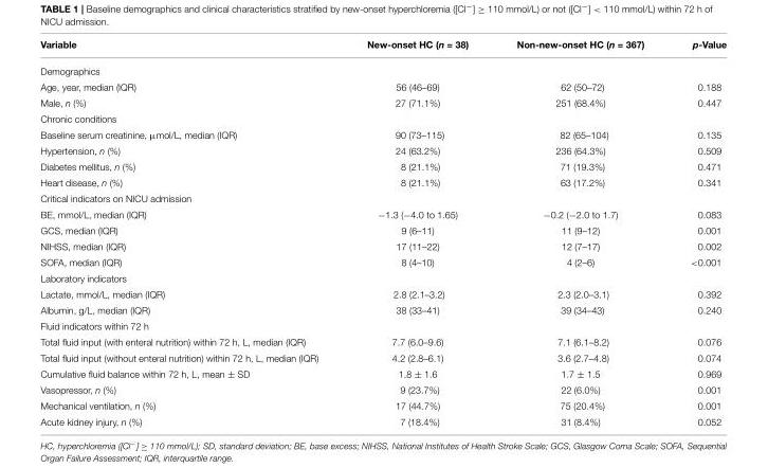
<table><thead><tr><td>Variable</td><td>New-onset HC (n = 38)</td><td>Non-new-onset HC (n = 367)</td><td>p-Value</td></tr></thead><tbody><tr><td colspan="4">Demographics</td></tr><tr><td>Age, year, median (IQR)</td><td>56 (46–69)</td><td>62 (50–72)</td><td>0.188</td></tr><tr><td>Male, n (%)</td><td>27 (71.1%)</td><td>251 (68.4%)</td><td>0.447</td></tr><tr><td colspan="4">Chronic conditions</td></tr><tr><td>Baseline serum creatinine, µmol/L, median (IQR)</td><td>90 (73–115)</td><td>82 (65–104)</td><td>0.135</td></tr><tr><td>Hypertension, n (%)</td><td>24 (63.2%)</td><td>236 (64.3%)</td><td>0.509</td></tr><tr><td>Diabetes mellitus, n (%)</td><td>8 (21.1%)</td><td>71 (19.3%)</td><td>0.471</td></tr><tr><td>Heart disease, n (%)</td><td>8 (21.1%)</td><td>63 (17.2%)</td><td>0.341</td></tr><tr><td colspan="4">Critical indicators on NICU admission</td></tr><tr><td>BE, mmol/L, median (IQR)</td><td>−1.3 (−4.0 to 1.65)</td><td>−0.2 (−2.0 to 1.7)</td><td>0.083</td></tr><tr><td>GCS, median (IQR)</td><td>9 (6–11)</td><td>11 (9–12)</td><td>0.001</td></tr><tr><td>NIHSS, median (IQR)</td><td>17 (11–22)</td><td>12 (7–17)</td><td>0.002</td></tr><tr><td>SOFA, median (IQR)</td><td>8 (4–10)</td><td>4 (2–6)</td><td>&lt;0.001</td></tr><tr><td colspan="4">Laboratory indicators</td></tr><tr><td>Lactate, mmol/L, median (IQR)</td><td>2.8 (2.1–3.2)</td><td>2.3 (2.0–3.1)</td><td>0.392</td></tr><tr><td>Albumin, g/L, median (IQR)</td><td>38 (33–41)</td><td>39 (34–43)</td><td>0.240</td></tr><tr><td colspan="4">Fluid indicators within 72 h</td></tr><tr><td>Total fluid input (with enteral nutrition) within 72 h, L, median (IQR)</td><td>7.7 (6.0–9.6)</td><td>7.1 (6.1–8.2)</td><td>0.076</td></tr><tr><td>Total fluid input (without enteral nutrition) within 72 h, L, median (IQR)</td><td>4.2 (2.8–6.1)</td><td>3.6 (2.7–4.8)</td><td>0.074</td></tr><tr><td>Cumulative fluid balance within 72 h, L, mean ± SD</td><td>1.8 ± 1.6</td><td>1.7 ± 1.5</td><td>0.969</td></tr><tr><td>Vasopressor, n (%)</td><td>9 (23.7%)</td><td>22 (6.0%)</td><td>0.001</td></tr><tr><td>Mechanical ventilation, n (%)</td><td>17 (44.7%)</td><td>75 (20.4%)</td><td>0.001</td></tr><tr><td>Acute kidney injury, n (%)</td><td>7 (18.4%)</td><td>31 (8.4%)</td><td>0.052</td></tr></tbody></table>